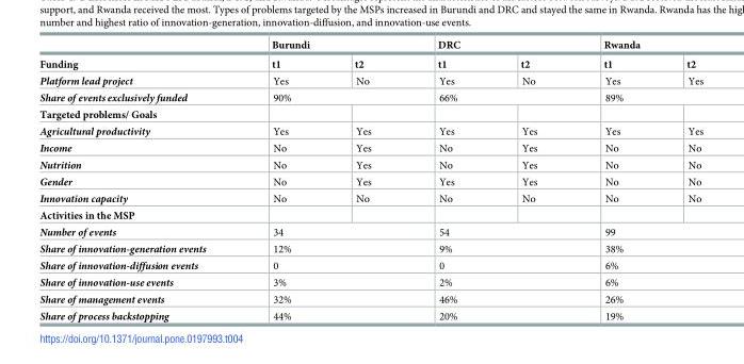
<table><thead><tr><td rowspan="2">Funding</td><td colspan="2">Burundi</td><td colspan="2">DRC</td><td colspan="2">Rwanda</td></tr><tr><td>t1</td><td>t2</td><td>t1</td><td>t2</td><td>t1</td><td>t2</td></tr></thead><tbody><tr><td>Platform lead project</td><td>Yes</td><td>No</td><td>Yes</td><td>No</td><td>Yes</td><td>Yes</td></tr><tr><td>Share of events exclusively funded</td><td colspan="2">90%</td><td colspan="2">66%</td><td colspan="2">89%</td></tr><tr><td colspan="7">Targeted problems/ Goals</td></tr><tr><td>Agricultural productivity</td><td>Yes</td><td>Yes</td><td>Yes</td><td>Yes</td><td>Yes</td><td>Yes</td></tr><tr><td>Income</td><td>No</td><td>Yes</td><td>No</td><td>Yes</td><td>No</td><td>No</td></tr><tr><td>Nutrition</td><td>No</td><td>Yes</td><td>No</td><td>Yes</td><td>No</td><td>No</td></tr><tr><td>Gender</td><td>No</td><td>Yes</td><td>Yes</td><td>Yes</td><td>No</td><td>No</td></tr><tr><td>Innovation capacity</td><td>No</td><td>No</td><td>No</td><td>No</td><td>No</td><td>No</td></tr><tr><td colspan="7">Activities in the MSP</td></tr><tr><td>Number of events</td><td colspan="2">34</td><td colspan="2">54</td><td colspan="2">99</td></tr><tr><td>Share of innovation-generation events</td><td colspan="2">12%</td><td colspan="2">9%</td><td colspan="2">38%</td></tr><tr><td>Share of innovation-diffusion events</td><td colspan="2">0</td><td colspan="2">0</td><td colspan="2">6%</td></tr><tr><td>Share of innovation-use events</td><td colspan="2">3%</td><td colspan="2">2%</td><td colspan="2">6%</td></tr><tr><td>Share of management events</td><td colspan="2">32%</td><td colspan="2">46%</td><td colspan="2">26%</td></tr><tr><td>Share of process backstopping</td><td colspan="2">44%</td><td colspan="2">20%</td><td colspan="2">19%</td></tr></tbody></table>